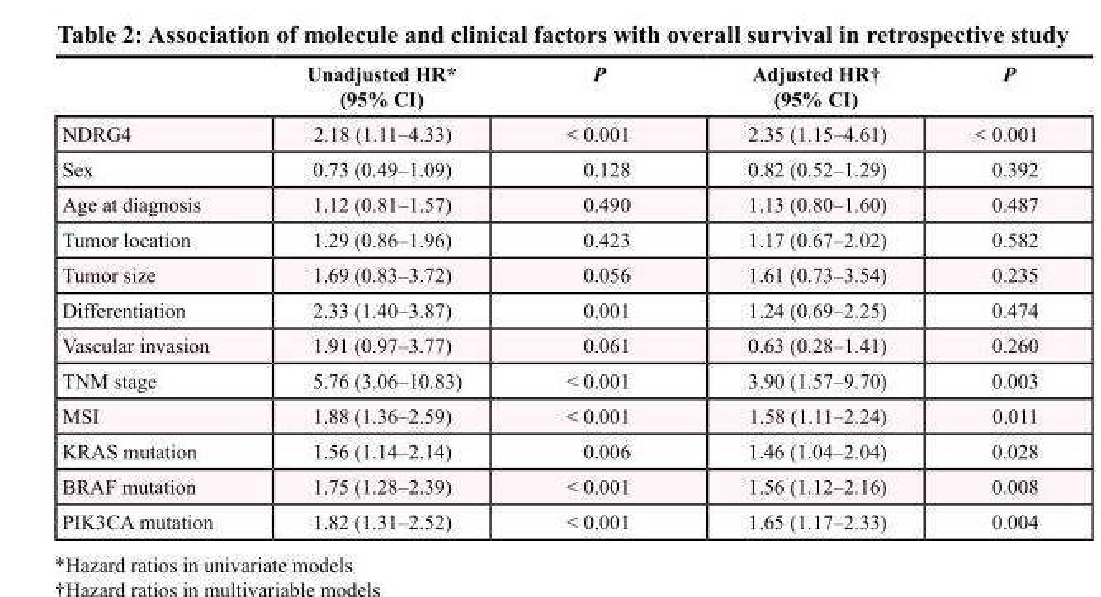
<table><thead><tr><td></td><td>Unadjusted HR* (95% CI)</td><td>P</td><td>Adjusted HR† (95% CI)</td><td>P</td></tr></thead><tbody><tr><td>NDRG4</td><td>2.18 (1.11–4.33)</td><td>&lt; 0.001</td><td>2.35 (1.15–4.61)</td><td>&lt; 0.001</td></tr><tr><td>Sex</td><td>0.73 (0.49–1.09)</td><td>0.128</td><td>0.82 (0.52–1.29)</td><td>0.392</td></tr><tr><td>Age at diagnosis</td><td>1.12 (0.81–1.57)</td><td>0.490</td><td>1.13 (0.80–1.60)</td><td>0.487</td></tr><tr><td>Tumor location</td><td>1.29 (0.86–1.96)</td><td>0.423</td><td>1.17 (0.67–2.02)</td><td>0.582</td></tr><tr><td>Tumor size</td><td>1.69 (0.83–3.72)</td><td>0.056</td><td>1.61 (0.73–3.54)</td><td>0.235</td></tr><tr><td>Differentiation</td><td>2.33 (1.40–3.87)</td><td>0.001</td><td>1.24 (0.69–2.25)</td><td>0.474</td></tr><tr><td>Vascular invasion</td><td>1.91 (0.97–3.77)</td><td>0.061</td><td>0.63 (0.28–1.41)</td><td>0.260</td></tr><tr><td>TNM stage</td><td>5.76 (3.06–10.83)</td><td>&lt; 0.001</td><td>3.90 (1.57–9.70)</td><td>0.003</td></tr><tr><td>MSI</td><td>1.88 (1.36–2.59)</td><td>&lt; 0.001</td><td>1.58 (1.11–2.24)</td><td>0.011</td></tr><tr><td>KRAS mutation</td><td>1.56 (1.14–2.14)</td><td>0.006</td><td>1.46 (1.04–2.04)</td><td>0.028</td></tr><tr><td>BRAF mutation</td><td>1.75 (1.28–2.39)</td><td>&lt; 0.001</td><td>1.56 (1.12–2.16)</td><td>0.008</td></tr><tr><td>PIK3CA mutation</td><td>1.82 (1.31–2.52)</td><td>&lt; 0.001</td><td>1.65 (1.17–2.33)</td><td>0.004</td></tr></tbody></table>